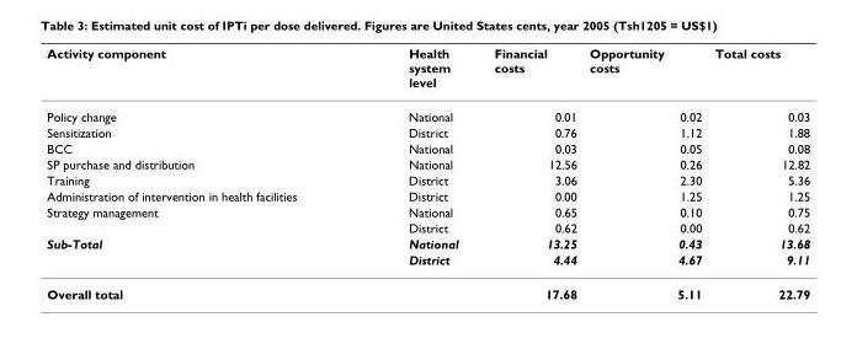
<table><thead><tr><td>Activity component</td><td>Health system level</td><td>Financial costs</td><td>Opportunity costs</td><td>Total costs</td></tr></thead><tbody><tr><td>Policy change</td><td>National</td><td>0.01</td><td>0.02</td><td>0.03</td></tr><tr><td>Sensitization</td><td>District</td><td>0.76</td><td>1.12</td><td>1.88</td></tr><tr><td>BCC</td><td>National</td><td>0.03</td><td>0.05</td><td>0.08</td></tr><tr><td>SP purchase and distribution</td><td>National</td><td>12.56</td><td>0.26</td><td>12.82</td></tr><tr><td>Training</td><td>District</td><td>3.06</td><td>2.30</td><td>5.36</td></tr><tr><td>Administration of intervention in health facilities</td><td>District</td><td>0.00</td><td>1.25</td><td>1.25</td></tr><tr><td rowspan="2">Strategy management</td><td>National</td><td>0.65</td><td>0.10</td><td>0.75</td></tr><tr><td>District</td><td>0.62</td><td>0.00</td><td>0.62</td></tr><tr><td rowspan="2">Sub-Total</td><td>National</td><td>13.25</td><td>0.43</td><td>13.68</td></tr><tr><td>District</td><td>4.44</td><td>4.67</td><td>9.11</td></tr><tr><td>Overall total</td><td></td><td>17.68</td><td>5.11</td><td>22.79</td></tr></tbody></table>